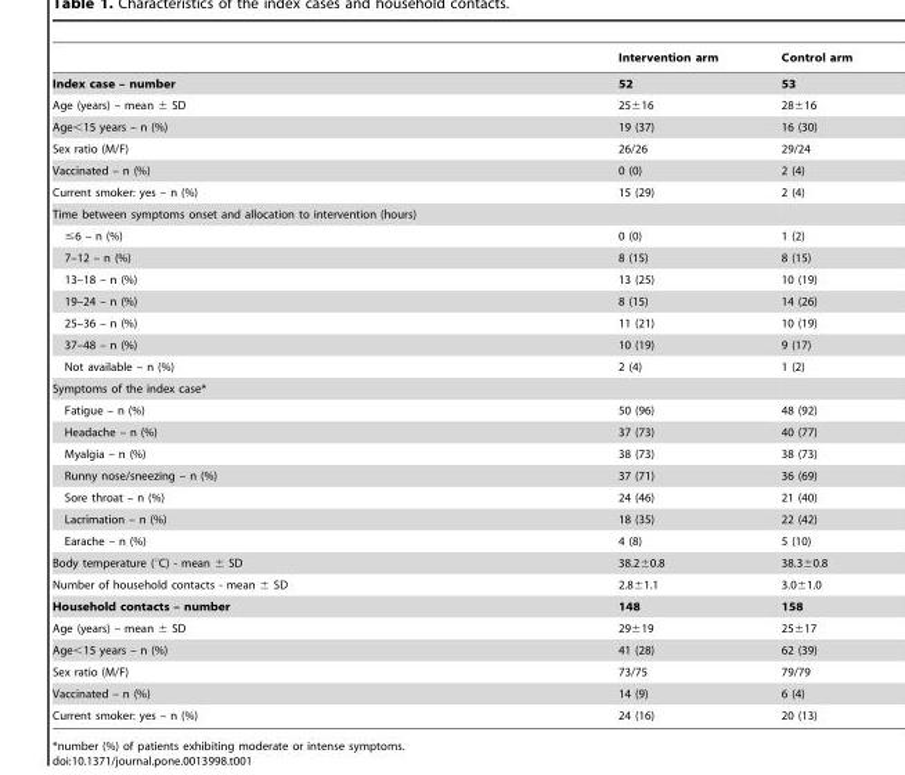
<table><thead><tr><td></td><td>Intervention arm</td><td>Control arm</td></tr></thead><tbody><tr><td>Index case – number</td><td>52</td><td>53</td></tr><tr><td>Age (years) – mean ± SD</td><td>25±16</td><td>28±16</td></tr><tr><td>Age&lt;15 years – n (%)</td><td>19 (37)</td><td>16 (30)</td></tr><tr><td>Sex ratio (M/F)</td><td>26/26</td><td>29/24</td></tr><tr><td>Vaccinated – n (%)</td><td>0 (0)</td><td>2 (4)</td></tr><tr><td>Current smoker: yes – n (%)</td><td>15 (29)</td><td>2 (4)</td></tr><tr><td colspan="3">Time between symptoms onset and allocation to intervention (hours)</td></tr><tr><td>≤6 – n (%)</td><td>0 (0)</td><td>1 (2)</td></tr><tr><td>7–12 – n (%)</td><td>8 (15)</td><td>8 (15)</td></tr><tr><td>13–18 – n (%)</td><td>13 (25)</td><td>10 (19)</td></tr><tr><td>19–24 – n (%)</td><td>8 (15)</td><td>14 (26)</td></tr><tr><td>25–36 – n (%)</td><td>11 (21)</td><td>10 (19)</td></tr><tr><td>37–48 – n (%)</td><td>10 (19)</td><td>9 (17)</td></tr><tr><td>Not available – n (%)</td><td>2 (4)</td><td>1 (2)</td></tr><tr><td colspan="3">Symptoms of the index case*</td></tr><tr><td>Fatigue – n (%)</td><td>50 (96)</td><td>48 (92)</td></tr><tr><td>Headache – n (%)</td><td>37 (73)</td><td>40 (77)</td></tr><tr><td>Myalgia – n (%)</td><td>38 (73)</td><td>38 (73)</td></tr><tr><td>Runny nose/sneezing – n (%)</td><td>37 (71)</td><td>36 (69)</td></tr><tr><td>Sore throat – n (%)</td><td>24 (46)</td><td>21 (40)</td></tr><tr><td>Lacrimation – n (%)</td><td>18 (35)</td><td>22 (42)</td></tr><tr><td>Earache – n (%)</td><td>4 (8)</td><td>5 (10)</td></tr><tr><td>Body temperature (°C) - mean ± SD</td><td>38.2±0.8</td><td>38.3±0.8</td></tr><tr><td>Number of household contacts - mean ± SD</td><td>2.8±1.1</td><td>3.0±1.0</td></tr><tr><td>Household contacts – number</td><td>148</td><td>158</td></tr><tr><td>Age (years) – mean ± SD</td><td>29±19</td><td>25±17</td></tr><tr><td>Age&lt;15 years – n (%)</td><td>41 (28)</td><td>62 (39)</td></tr><tr><td>Sex ratio (M/F)</td><td>73/75</td><td>79/79</td></tr><tr><td>Vaccinated – n (%)</td><td>14 (9)</td><td>6 (4)</td></tr><tr><td>Current smoker: yes – n (%)</td><td>24 (16)</td><td>20 (13)</td></tr></tbody></table>